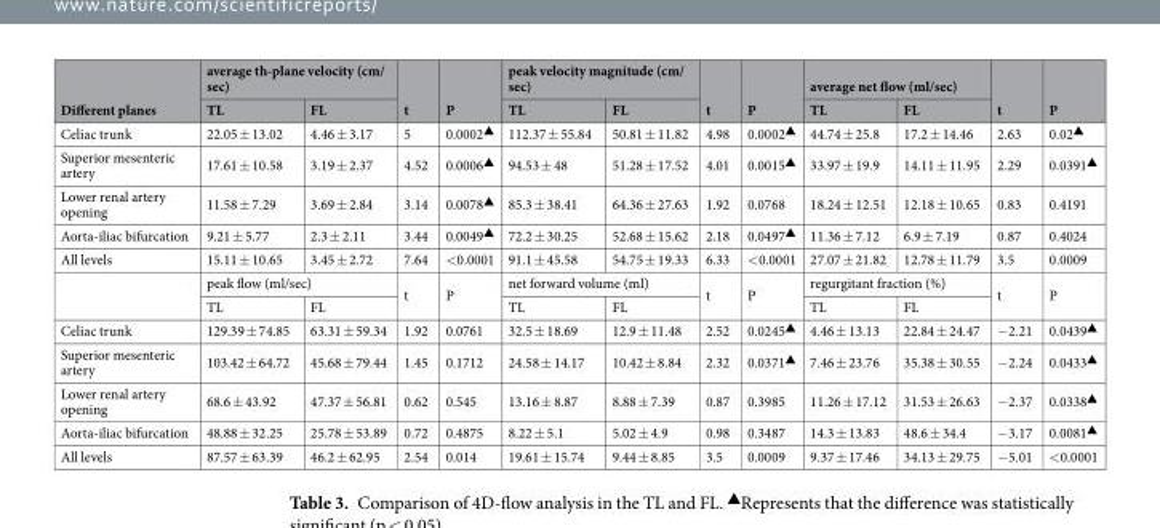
<table><thead><tr><td rowspan="2">Different planes</td><td colspan="2">average th-plane velocity (cm/ sec)</td><td rowspan="2">t</td><td rowspan="2">P</td><td colspan="2">peak velocity magnitude (cm/ sec)</td><td rowspan="2">t</td><td rowspan="2">P</td><td colspan="2">average net flow (ml/sec)</td><td rowspan="2">t</td><td rowspan="2">P</td></tr><tr><td>TL</td><td>FL</td><td>TL</td><td>FL</td><td>TL</td><td>FL</td></tr></thead><tbody><tr><td>Celiac trunk</td><td>22.05 ± 13.02</td><td>4.46 ± 3.17</td><td>5</td><td>0.0002<sup>▲</sup></td><td>112.37 ± 55.84</td><td>50.81 ± 11.82</td><td>4.98</td><td>0.0002<sup>▲</sup></td><td>44.74 ± 25.8</td><td>17.2 ± 14.46</td><td>2.63</td><td>0.02<sup>▲</sup></td></tr><tr><td>Superior mesenteric artery</td><td>17.61 ± 10.58</td><td>3.19 ± 2.37</td><td>4.52</td><td>0.0006<sup>▲</sup></td><td>94.53 ± 48</td><td>51.28 ± 17.52</td><td>4.01</td><td>0.0015<sup>▲</sup></td><td>33.97 ± 19.9</td><td>14.11 ± 11.95</td><td>2.29</td><td>0.0391<sup>▲</sup></td></tr><tr><td>Lower renal artery opening</td><td>11.58 ± 7.29</td><td>3.69 ± 2.84</td><td>3.14</td><td>0.0078<sup>▲</sup></td><td>85.3 ± 38.41</td><td>64.36 ± 27.63</td><td>1.92</td><td>0.0768</td><td>18.24 ± 12.51</td><td>12.18 ± 10.65</td><td>0.83</td><td>0.4191</td></tr><tr><td>Aorta-iliac bifurcation</td><td>9.21 ± 5.77</td><td>2.3 ± 2.11</td><td>3.44</td><td>0.0049<sup>▲</sup></td><td>72.2 ± 30.25</td><td>52.68 ± 15.62</td><td>2.18</td><td>0.0497<sup>▲</sup></td><td>11.36 ± 7.12</td><td>6.9 ± 7.19</td><td>0.87</td><td>0.4024</td></tr><tr><td rowspan="3">All levels</td><td>15.11 ± 10.65</td><td>3.45 ± 2.72</td><td>7.64</td><td>&lt;0.0001</td><td>91.1 ± 45.58</td><td>54.75 ± 19.33</td><td>6.33</td><td>&lt;0.0001</td><td>27.07 ± 21.82</td><td>12.78 ± 11.79</td><td>3.5</td><td>0.0009</td></tr><tr><td colspan="2">peak flow (ml/sec)</td><td rowspan="2">t</td><td rowspan="2">P</td><td colspan="2">net forward volume (ml)</td><td rowspan="2">t</td><td rowspan="2">P</td><td colspan="2">regurgitant fraction (%)</td><td rowspan="2">t</td><td rowspan="2">P</td></tr><tr><td>TL</td><td>FL</td><td>TL</td><td>FL</td><td>TL</td><td>FL</td></tr><tr><td>Celiac trunk</td><td>129.39 ± 74.85</td><td>63.31 ± 59.34</td><td>1.92</td><td>0.0761</td><td>32.5 ± 18.69</td><td>12.9 ± 11.48</td><td>2.52</td><td>0.0245<sup>▲</sup></td><td>4.46 ± 13.13</td><td>22.84 ± 24.47</td><td>−2.21</td><td>0.0439<sup>▲</sup></td></tr><tr><td>Superior mesenteric artery</td><td>103.42 ± 64.72</td><td>45.68 ± 79.44</td><td>1.45</td><td>0.1712</td><td>24.58 ± 14.17</td><td>10.42 ± 8.84</td><td>2.32</td><td>0.0371<sup>▲</sup></td><td>7.46 ± 23.76</td><td>35.38 ± 30.55</td><td>−2.24</td><td>0.0433<sup>▲</sup></td></tr><tr><td>Lower renal artery opening</td><td>68.6 ± 43.92</td><td>47.37 ± 56.81</td><td>0.62</td><td>0.545</td><td>13.16 ± 8.87</td><td>8.88 ± 7.39</td><td>0.87</td><td>0.3985</td><td>11.26 ± 17.12</td><td>31.53 ± 26.63</td><td>−2.37</td><td>0.0338<sup>▲</sup></td></tr><tr><td>Aorta-iliac bifurcation</td><td>48.88 ± 32.25</td><td>25.78 ± 53.89</td><td>0.72</td><td>0.4875</td><td>8.22 ± 5.1</td><td>5.02 ± 4.9</td><td>0.98</td><td>0.3487</td><td>14.3 ± 13.83</td><td>48.6 ± 34.4</td><td>−3.17</td><td>0.0081<sup>▲</sup></td></tr><tr><td>All levels</td><td>87.57 ± 63.39</td><td>46.2 ± 62.95</td><td>2.54</td><td>0.014</td><td>19.61 ± 15.74</td><td>9.44 ± 8.85</td><td>3.5</td><td>0.0009</td><td>9.37 ± 17.46</td><td>34.13 ± 29.75</td><td>−5.01</td><td>&lt;0.0001</td></tr></tbody></table>